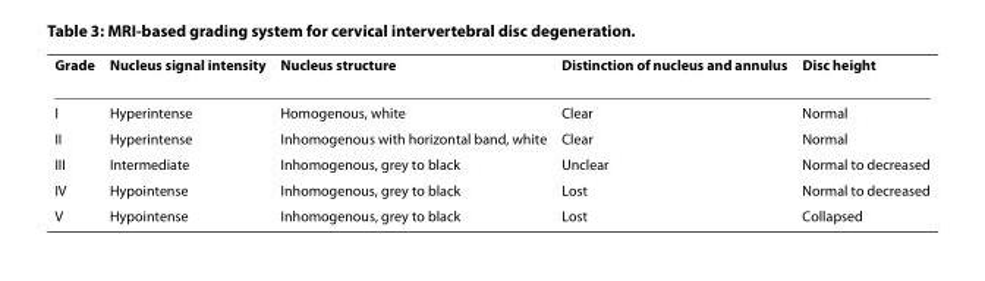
<table><thead><tr><td>Grade</td><td>Nucleus signal intensity</td><td>Nucleus structure</td><td>Distinction of nucleus and annulus</td><td>Disc height</td></tr></thead><tbody><tr><td>I</td><td>Hyperintense</td><td>Homogenous, white</td><td>Clear</td><td>Normal</td></tr><tr><td>II</td><td>Hyperintense</td><td>Inhomogenous with horizontal band, white</td><td>Clear</td><td>Normal</td></tr><tr><td>III</td><td>Intermediate</td><td>Inhomogenous, grey to black</td><td>Unclear</td><td>Normal to decreased</td></tr><tr><td>IV</td><td>Hypointense</td><td>Inhomogenous, grey to black</td><td>Lost</td><td>Normal to decreased</td></tr><tr><td>V</td><td>Hypointense</td><td>Inhomogenous, grey to black</td><td>Lost</td><td>Collapsed</td></tr></tbody></table>